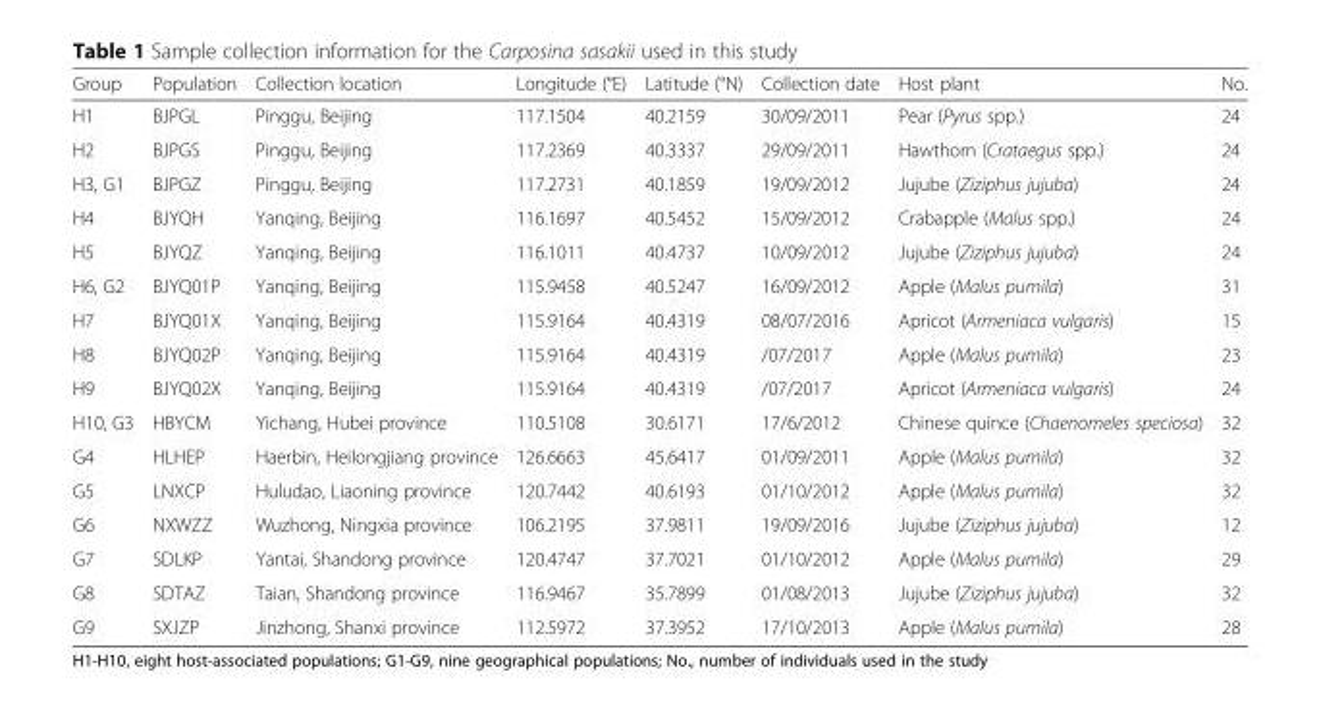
<table><thead><tr><td>Group</td><td>Population</td><td>Collection location</td><td>Longitude (°E)</td><td>Latitude (°N)</td><td>Collection date</td><td>Host plant</td><td>No.</td></tr></thead><tbody><tr><td>H1</td><td>BJPGL</td><td>Pinggu, Beijing</td><td>117.1504</td><td>40.2159</td><td>30/09/2011</td><td>Pear (Pyrus spp.)</td><td>24</td></tr><tr><td>H2</td><td>BJPGS</td><td>Pinggu, Beijing</td><td>117.2369</td><td>40.3337</td><td>29/09/2011</td><td>Hawthorn (Crataegus spp.)</td><td>24</td></tr><tr><td>H3, G1</td><td>BJPGZ</td><td>Pinggu, Beijing</td><td>117.2731</td><td>40.1859</td><td>19/09/2012</td><td>Jujube (Ziziphus jujuba)</td><td>24</td></tr><tr><td>H4</td><td>BJYQH</td><td>Yanqing, Beijing</td><td>116.1697</td><td>40.5452</td><td>15/09/2012</td><td>Crabapple (Malus spp.)</td><td>24</td></tr><tr><td>H5</td><td>BJYQZ</td><td>Yanqing, Beijing</td><td>116.1011</td><td>40.4737</td><td>10/09/2012</td><td>Jujube (Ziziphus jujuba)</td><td>24</td></tr><tr><td>H6, G2</td><td>BJYQ01P</td><td>Yanqing, Beijing</td><td>115.9458</td><td>40.5247</td><td>16/09/2012</td><td>Apple (Malus pumila)</td><td>31</td></tr><tr><td>H7</td><td>BJYQ01X</td><td>Yanqing, Beijing</td><td>115.9164</td><td>40.4319</td><td>08/07/2016</td><td>Apricot (Armeniaca vulgaris)</td><td>15</td></tr><tr><td>H8</td><td>BJYQ02P</td><td>Yanqing, Beijing</td><td>115.9164</td><td>40.4319</td><td>/07/2017</td><td>Apple (Malus pumila)</td><td>23</td></tr><tr><td>H9</td><td>BJYQ02X</td><td>Yanqing, Beijing</td><td>115.9164</td><td>40.4319</td><td>/07/2017</td><td>Apricot (Armeniaca vulgaris)</td><td>24</td></tr><tr><td>H10, G3</td><td>HBYCM</td><td>Yichang, Hubei province</td><td>110.5108</td><td>30.6171</td><td>17/6/2012</td><td>Chinese quince (Chaenomeles speciosa)</td><td>32</td></tr><tr><td>G4</td><td>HLHEP</td><td>Haerbin, Heilongjiang province</td><td>126.6663</td><td>45.6417</td><td>01/09/2011</td><td>Apple (Malus pumila)</td><td>32</td></tr><tr><td>G5</td><td>LNXCP</td><td>Huludao, Liaoning province</td><td>120.7442</td><td>40.6193</td><td>01/10/2012</td><td>Apple (Malus pumila)</td><td>32</td></tr><tr><td>G6</td><td>NXWZZ</td><td>Wuzhong, Ningxia province</td><td>106.2195</td><td>37.9811</td><td>19/09/2016</td><td>Jujube (Ziziphus jujuba)</td><td>12</td></tr><tr><td>G7</td><td>SDLKP</td><td>Yantai, Shandong province</td><td>120.4747</td><td>37.7021</td><td>01/10/2012</td><td>Apple (Malus pumila)</td><td>29</td></tr><tr><td>G8</td><td>SDTAZ</td><td>Taian, Shandong province</td><td>116.9467</td><td>35.7899</td><td>01/08/2013</td><td>Jujube (Ziziphus jujuba)</td><td>32</td></tr><tr><td>G9</td><td>SXJZP</td><td>Jinzhong, Shanxi province</td><td>112.5972</td><td>37.3952</td><td>17/10/2013</td><td>Apple (Malus pumila)</td><td>28</td></tr></tbody></table>